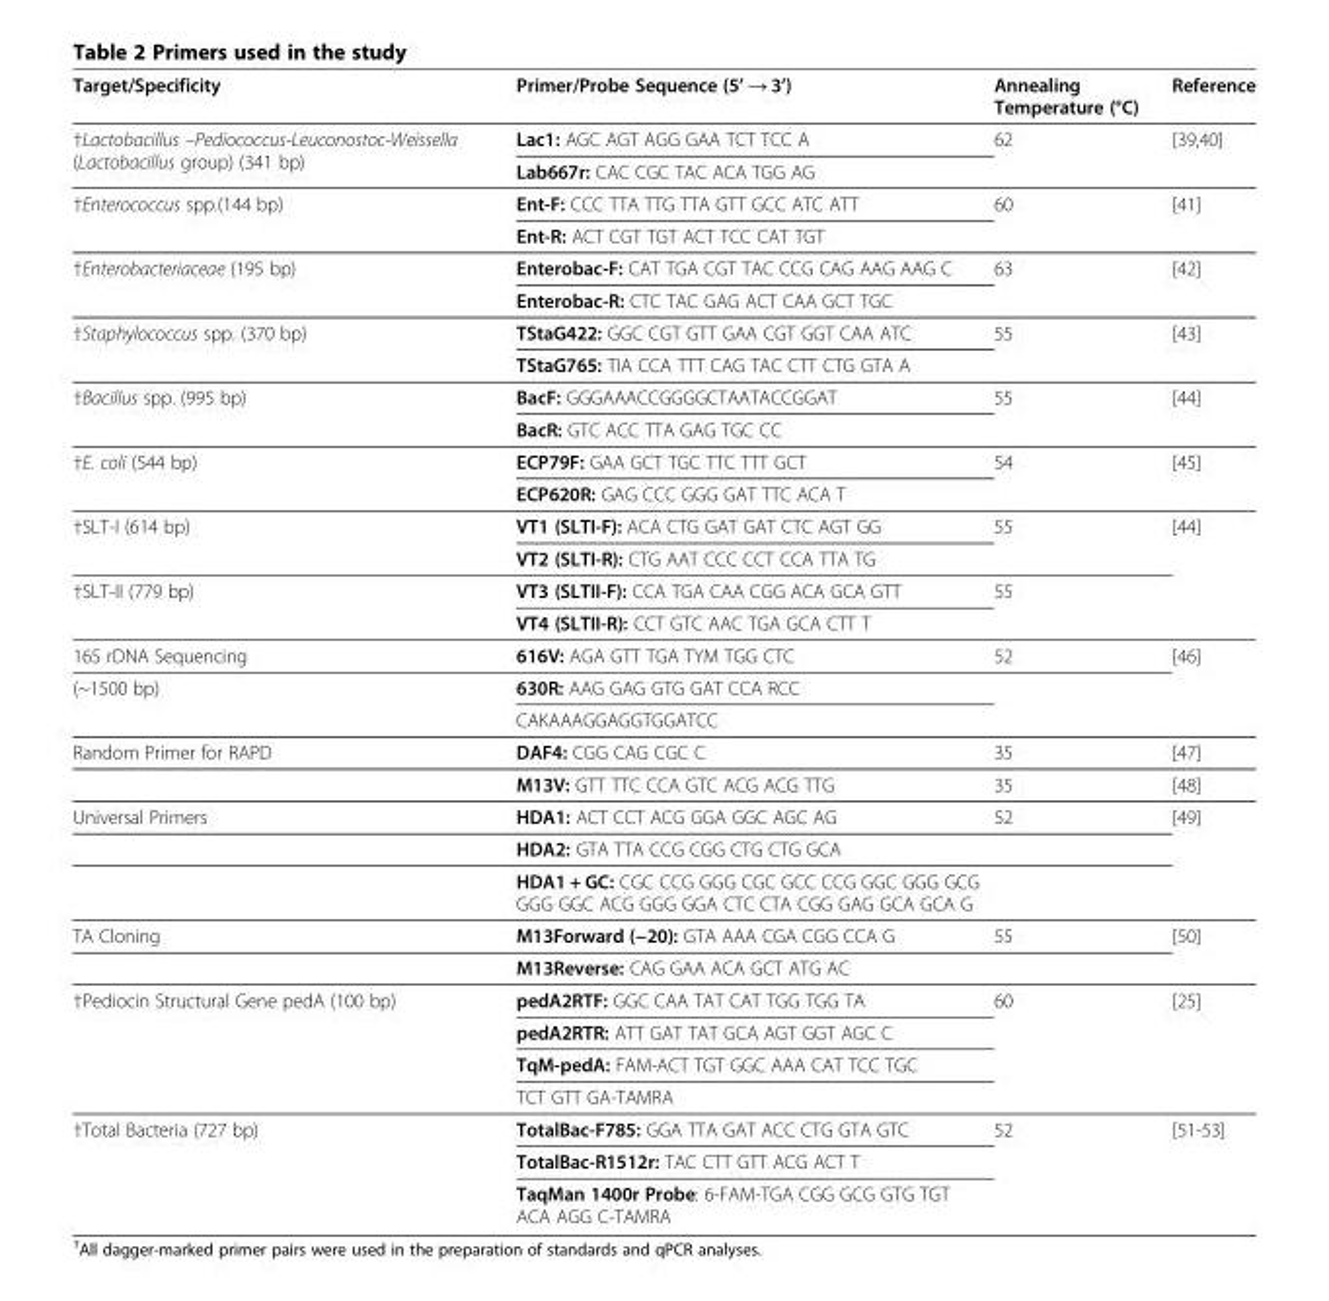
<table><thead><tr><td>Target/Specificity</td><td>Primer/Probe Sequence (5’ → 3’)</td><td>Annealing Temperature (°C)</td><td>Reference</td></tr></thead><tbody><tr><td rowspan="2">†Lactobacillus –Pediococcus-Leuconostoc-Weissella (Lactobacillus group) (341 bp)</td><td>Lac1: AGC AGT AGG GAA TCT TCC A</td><td rowspan="2">62</td><td rowspan="2">[39,40]</td></tr><tr><td>Lab667r: CAC CGC TAC ACA TGG AG</td></tr><tr><td rowspan="2">†Enterococcus spp.(144 bp)</td><td>Ent-F: CCC TTA TTG TTA GTT GCC ATC ATT</td><td rowspan="2">60</td><td rowspan="2">[41]</td></tr><tr><td>Ent-R: ACT CGT TGT ACT TCC CAT TGT</td></tr><tr><td rowspan="2">†Enterobacteriaceae (195 bp)</td><td>Enterobac-F: CAT TGA CGT TAC CCG CAG AAG AAG C</td><td rowspan="2">63</td><td rowspan="2">[42]</td></tr><tr><td>Enterobac-R: CTC TAC GAG ACT CAA GCT TGC</td></tr><tr><td rowspan="2">†Staphylococcus spp. (370 bp)</td><td>TStaG422: GGC CGT GTT GAA CGT GGT CAA ATC</td><td rowspan="2">55</td><td rowspan="2">[43]</td></tr><tr><td>TStaG765: TIA CCA TTT CAG TAC CTT CTG GTA A</td></tr><tr><td rowspan="2">†Bacillus spp. (995 bp)</td><td>BacF: GGGAAACCGGGGCTAATACCGGAT</td><td rowspan="2">55</td><td rowspan="2">[44]</td></tr><tr><td>BacR: GTC ACC TTA GAG TGC CC</td></tr><tr><td rowspan="2">†E. coli (544 bp)</td><td>ECP79F: GAA GCT TGC TTC TTT GCT</td><td rowspan="2">54</td><td rowspan="2">[45]</td></tr><tr><td>ECP620R: GAG CCC GGG GAT TTC ACA T</td></tr><tr><td rowspan="2">†SLT-I (614 bp)</td><td>VT1 (SLTI-F): ACA CTG GAT GAT CTC AGT GG</td><td rowspan="2">55</td><td rowspan="4">[44]</td></tr><tr><td>VT2 (SLTI-R): CTG AAT CCC CCT CCA TTA TG</td></tr><tr><td rowspan="2">†SLT-II (779 bp)</td><td>VT3 (SLTII-F): CCA TGA CAA CGG ACA GCA GTT</td><td rowspan="2">55</td></tr><tr><td>VT4 (SLTII-R): CCT GTC AAC TGA GCA CTT T</td></tr><tr><td>16S rDNA Sequencing</td><td>616V: AGA GTT TGA TYM TGG CTC</td><td>52</td><td rowspan="3">[46]</td></tr><tr><td rowspan="2">(~1500 bp)</td><td>630R: AAG GAG GTG GAT CCA RCC</td><td rowspan="2"></td></tr><tr><td>CAKAAAGGAGGTGGATCC</td></tr><tr><td rowspan="2">Random Primer for RAPD</td><td>DAF4: CGG CAG CGC C</td><td>35</td><td>[47]</td></tr><tr><td>M13V: GTT TTC CCA GTC ACG ACG TTG</td><td>35</td><td>[48]</td></tr><tr><td rowspan="3">Universal Primers</td><td>HDA1: ACT CCT ACG GGA GGC AGC AG</td><td>52</td><td rowspan="3">[49]</td></tr><tr><td>HDA2: GTA TTA CCG CGG CTG CTG GCA</td><td></td></tr><tr><td>HDA1 + GC: CGC CCG GGG CGC GCC CCG GGC GGG GCG GGG GGC ACG GGG GGA CTC CTA CGG GAG GCA GCA G</td><td></td></tr><tr><td rowspan="2">TA Cloning</td><td>M13Forward (−20): GTA AAA CGA CGG CCA G</td><td>55</td><td rowspan="2">[50]</td></tr><tr><td>M13Reverse: CAG GAA ACA GCT ATG AC</td><td></td></tr><tr><td rowspan="4">†Pediocin Structural Gene pedA (100 bp)</td><td>pedA2RTF: GGC CAA TAT CAT TGG TGG TA</td><td rowspan="4">60</td><td rowspan="4">[25]</td></tr><tr><td>pedA2RTR: ATT GAT TAT GCA AGT GGT AGC C</td></tr><tr><td>TqM-pedA: FAM-ACT TGT GGC AAA CAT TCC TGC</td></tr><tr><td>TCT GTT GA-TAMRA</td></tr><tr><td rowspan="3">†Total Bacteria (727 bp)</td><td>TotalBac-F785: GGA TTA GAT ACC CTG GTA GTC</td><td rowspan="3">52</td><td rowspan="3">[51-53]</td></tr><tr><td>TotalBac-R1512r: TAC CTT GTT ACG ACT T</td></tr><tr><td>TaqMan 1400r Probe: 6-FAM-TGA CGG GCG GTG TGT ACA AGG C-TAMRA</td></tr></tbody></table>